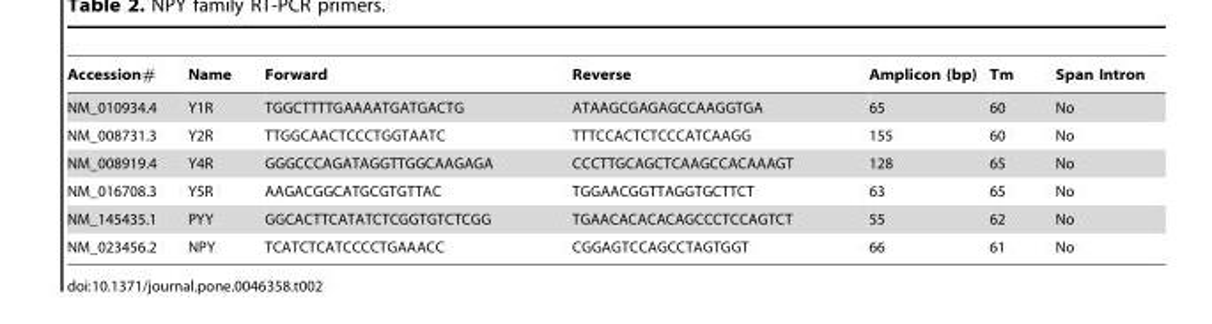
<table><thead><tr><td>Accession#</td><td>Name</td><td>Forward</td><td>Reverse</td><td>Amplicon (bp)</td><td>Tm</td><td>Span Intron</td></tr></thead><tbody><tr><td>NM_010934.4</td><td>Y1R</td><td>TGGCTTTTGAAAATGATGACTG</td><td>ATAAGCGAGAGCCAAGGTGA</td><td>65</td><td>60</td><td>No</td></tr><tr><td>NM_008731.3</td><td>Y2R</td><td>TTGGCAACTCCCTGGTAATC</td><td>TTTCCACTCTCCCATCAAGG</td><td>155</td><td>60</td><td>No</td></tr><tr><td>NM_008919.4</td><td>Y4R</td><td>GGGCCCAGATAGGTTGGCAAGAGA</td><td>CCCTTGCAGCTCAAGCCACAAAGT</td><td>128</td><td>65</td><td>No</td></tr><tr><td>NM_016708.3</td><td>Y5R</td><td>AAGACGGCATGCGTGTTAC</td><td>TGGAACGGTTAGGTGCTTCT</td><td>63</td><td>65</td><td>No</td></tr><tr><td>NM_145435.1</td><td>PYY</td><td>GGCACTTCATATCTCGGTGTCTCGG</td><td>TGAACACACACAGCCCTCCAGTCT</td><td>55</td><td>62</td><td>No</td></tr><tr><td>NM_023456.2</td><td>NPY</td><td>TCATCTCATCCCCTGAAACC</td><td>CGGAGTCCAGCCTAGTGGT</td><td>66</td><td>61</td><td>No</td></tr></tbody></table>